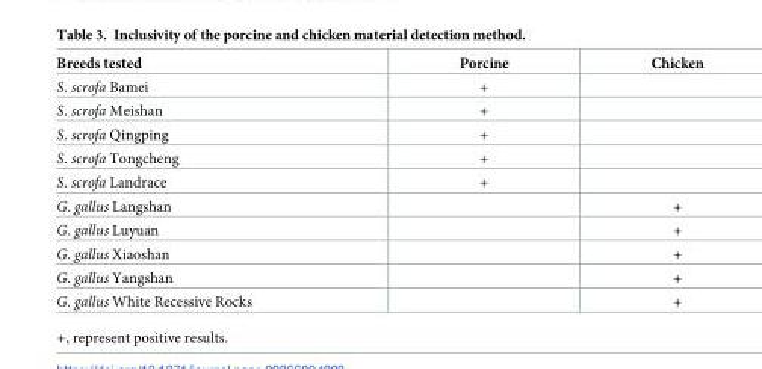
<table><thead><tr><td>Breeds tested</td><td>Porcine</td><td>Chicken</td></tr></thead><tbody><tr><td>S. scrofa Bamei</td><td>+</td><td></td></tr><tr><td>S. scrofa Meishan</td><td>+</td><td></td></tr><tr><td>S. scrofa Qingping</td><td>+</td><td></td></tr><tr><td>S. scrofa Tongcheng</td><td>+</td><td></td></tr><tr><td>S. scrofa Landrace</td><td>+</td><td></td></tr><tr><td>G. gallus Langshan</td><td></td><td>+</td></tr><tr><td>G. gallus Luyuan</td><td></td><td>+</td></tr><tr><td>G. gallus Xiaoshan</td><td></td><td>+</td></tr><tr><td>G. gallus Yangshan</td><td></td><td>+</td></tr><tr><td>G. gallus White Recessive Rocks</td><td></td><td>+</td></tr></tbody></table>